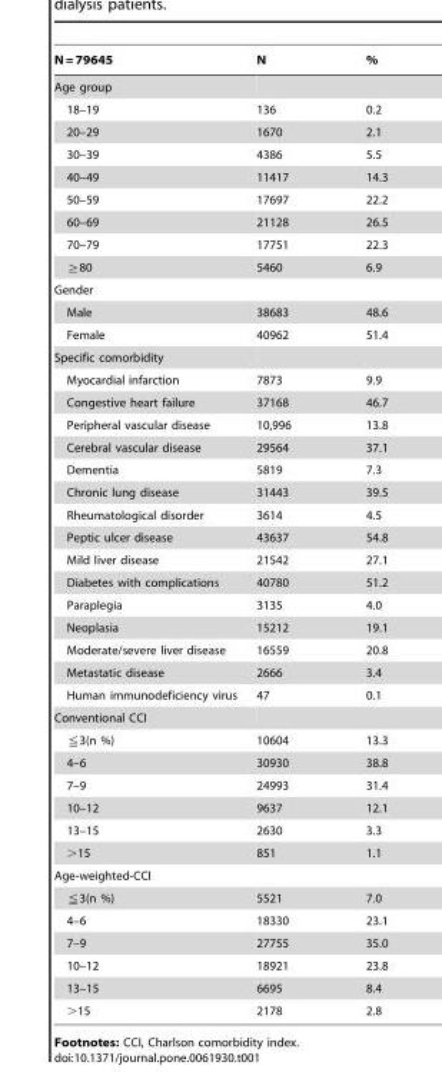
<table><thead><tr><td>N = 79645</td><td>N</td><td>%</td></tr></thead><tbody><tr><td colspan="3">Age group</td></tr><tr><td>18–19</td><td>136</td><td>0.2</td></tr><tr><td>20–29</td><td>1670</td><td>2.1</td></tr><tr><td>30–39</td><td>4386</td><td>5.5</td></tr><tr><td>40–49</td><td>11417</td><td>14.3</td></tr><tr><td>50–59</td><td>17697</td><td>22.2</td></tr><tr><td>60–69</td><td>21128</td><td>26.5</td></tr><tr><td>70–79</td><td>17751</td><td>22.3</td></tr><tr><td>≧80</td><td>5460</td><td>6.9</td></tr><tr><td colspan="3">Gender</td></tr><tr><td>Male</td><td>38683</td><td>48.6</td></tr><tr><td>Female</td><td>40962</td><td>51.4</td></tr><tr><td colspan="3">Specific comorbidity</td></tr><tr><td>Myocardial infarction</td><td>7873</td><td>9.9</td></tr><tr><td>Congestive heart failure</td><td>37168</td><td>46.7</td></tr><tr><td>Peripheral vascular disease</td><td>10,996</td><td>13.8</td></tr><tr><td>Cerebral vascular disease</td><td>29564</td><td>37.1</td></tr><tr><td>Dementia</td><td>5819</td><td>7.3</td></tr><tr><td>Chronic lung disease</td><td>31443</td><td>39.5</td></tr><tr><td>Rheumatological disorder</td><td>3614</td><td>4.5</td></tr><tr><td>Peptic ulcer disease</td><td>43637</td><td>54.8</td></tr><tr><td>Mild liver disease</td><td>21542</td><td>27.1</td></tr><tr><td>Diabetes with complications</td><td>40780</td><td>51.2</td></tr><tr><td>Paraplegia</td><td>3135</td><td>4.0</td></tr><tr><td>Neoplasia</td><td>15212</td><td>19.1</td></tr><tr><td>Moderate/severe liver disease</td><td>16559</td><td>20.8</td></tr><tr><td>Metastatic disease</td><td>2666</td><td>3.4</td></tr><tr><td>Human immunodeficiency virus</td><td>47</td><td>0.1</td></tr><tr><td colspan="3">Conventional CCI</td></tr><tr><td>≦3(n %)</td><td>10604</td><td>13.3</td></tr><tr><td>4–6</td><td>30930</td><td>38.8</td></tr><tr><td>7–9</td><td>24993</td><td>31.4</td></tr><tr><td>10–12</td><td>9637</td><td>12.1</td></tr><tr><td>13–15</td><td>2630</td><td>3.3</td></tr><tr><td>&gt;15</td><td>851</td><td>1.1</td></tr><tr><td colspan="3">Age-weighted-CCI</td></tr><tr><td>≦3(n %)</td><td>5521</td><td>7.0</td></tr><tr><td>4–6</td><td>18330</td><td>23.1</td></tr><tr><td>7–9</td><td>27755</td><td>35.0</td></tr><tr><td>10–12</td><td>18921</td><td>23.8</td></tr><tr><td>13–15</td><td>6695</td><td>8.4</td></tr><tr><td>&gt;15</td><td>2178</td><td>2.8</td></tr></tbody></table>